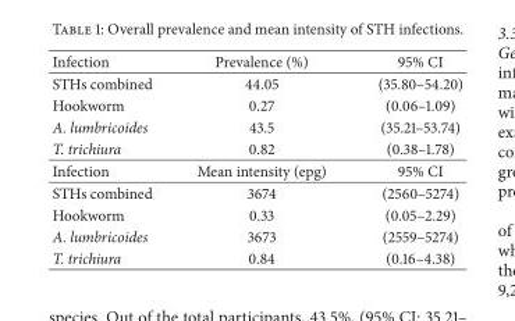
<table><thead><tr><td>Infection</td><td>Prevalence (%)</td><td>95% CI</td></tr></thead><tbody><tr><td>STHs combined</td><td>44.05</td><td>(35.80–54.20)</td></tr><tr><td>Hookworm</td><td>0.27</td><td>(0.06–1.09)</td></tr><tr><td>A. lumbricoides</td><td>43.5</td><td>(35.21–53.74)</td></tr><tr><td>T. trichiura</td><td>0.82</td><td>(0.38–1.78)</td></tr><tr><td>Infection</td><td>Mean intensity (epg)</td><td>95% CI</td></tr><tr><td>STHs combined</td><td>3674</td><td>(2560–5274)</td></tr><tr><td>Hookworm</td><td>0.33</td><td>(0.05–2.29)</td></tr><tr><td>A. lumbricoides</td><td>3673</td><td>(2559–5274)</td></tr><tr><td>T. trichiura</td><td>0.84</td><td>(0.16–4.38)</td></tr></tbody></table>